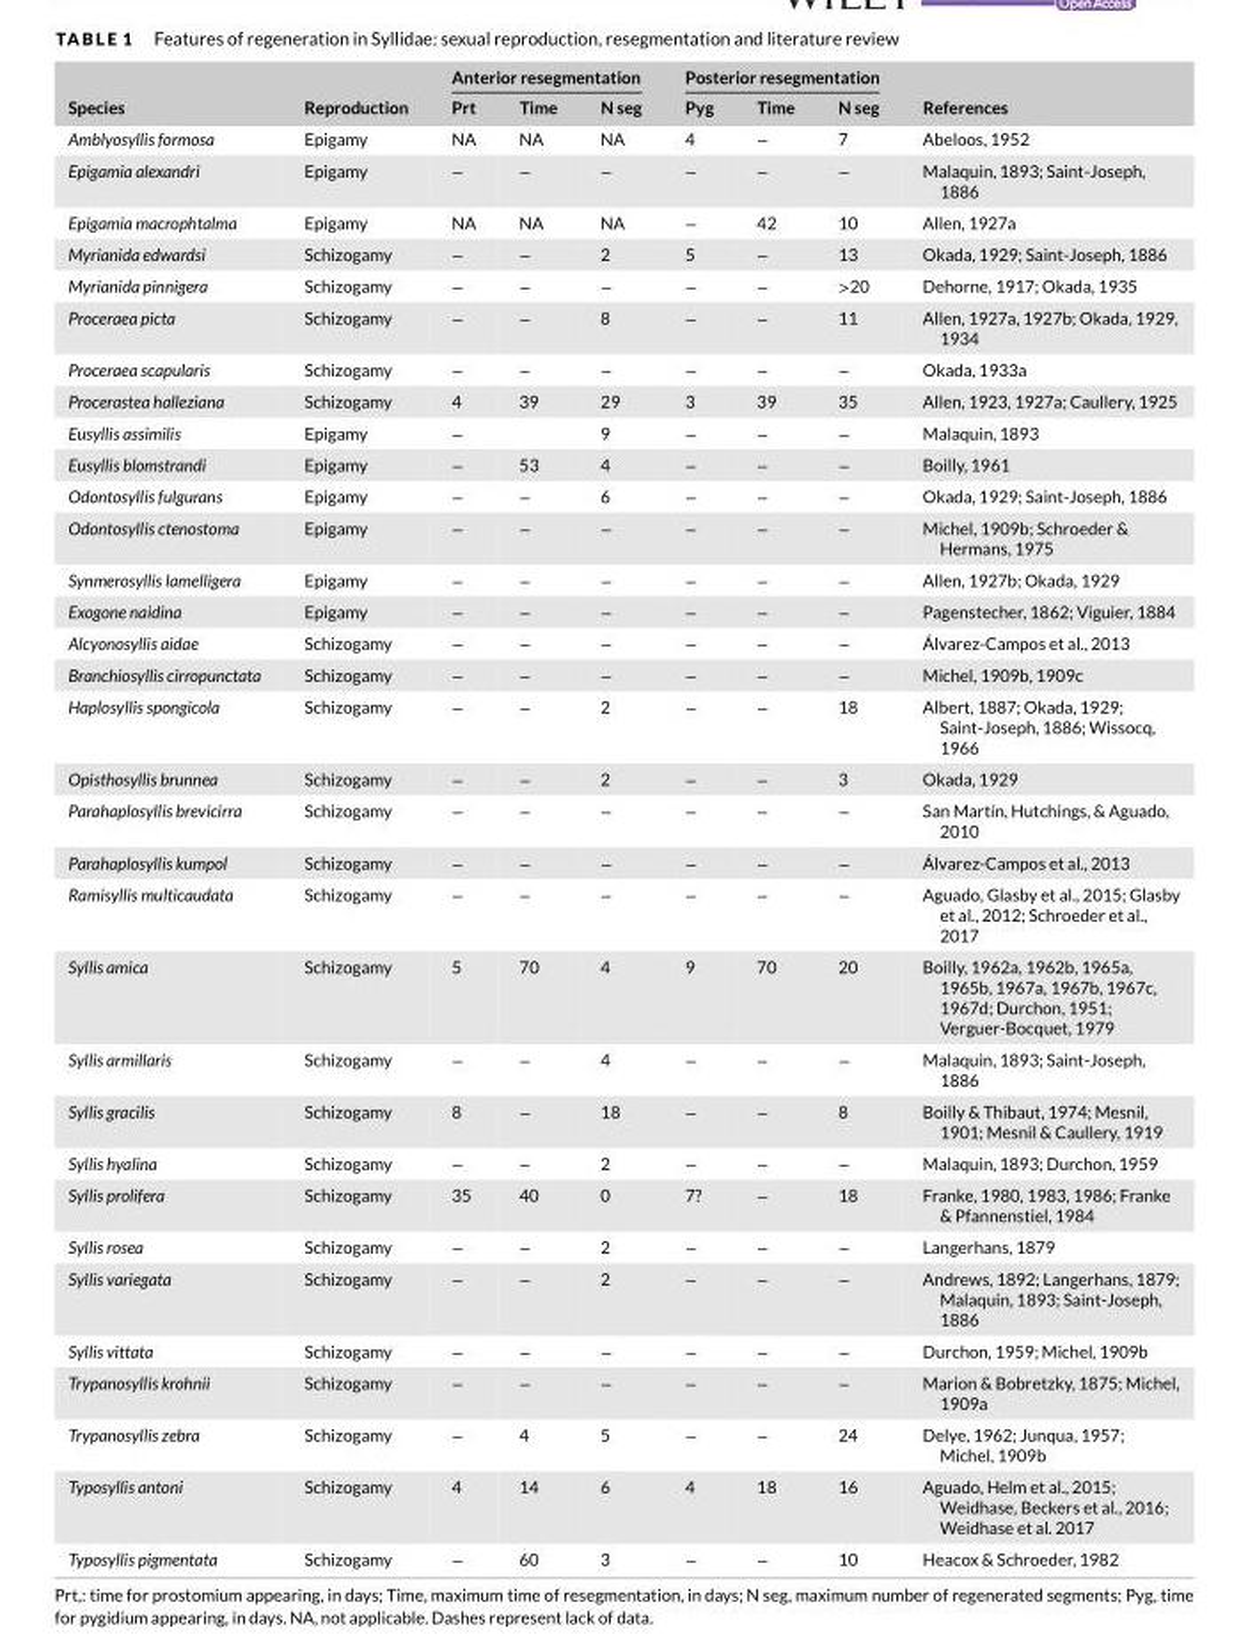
<table><thead><tr><td rowspan="2">Species</td><td rowspan="2">Reproduction</td><td colspan="3">Anterior resegmentation</td><td colspan="3">Posterior resegmentation</td><td rowspan="2">References</td></tr><tr><td>Prt</td><td>Time</td><td>N seg</td><td>Pyg</td><td>Time</td><td>N seg</td></tr></thead><tbody><tr><td>Amblyosyllis formosa</td><td>Epigamy</td><td>NA</td><td>NA</td><td>NA</td><td>4</td><td>−</td><td>7</td><td>Abeloos, 1952</td></tr><tr><td>Epigamia alexandri</td><td>Epigamy</td><td>−</td><td>−</td><td>−</td><td>−</td><td>−</td><td>−</td><td>Malaquin, 1893; Saint-Joseph, 1886</td></tr><tr><td>Epigamia macrophtalma</td><td>Epigamy</td><td>NA</td><td>NA</td><td>NA</td><td>−</td><td>42</td><td>10</td><td>Allen, 1927a</td></tr><tr><td>Myrianida edwardsi</td><td>Schizogamy</td><td>−</td><td>−</td><td>2</td><td>5</td><td>−</td><td>13</td><td>Okada, 1929; Saint-Joseph, 1886</td></tr><tr><td>Myrianida pinnigera</td><td>Schizogamy</td><td>−</td><td>−</td><td>−</td><td>−</td><td>−</td><td>&gt;20</td><td>Dehorne, 1917; Okada, 1935</td></tr><tr><td>Proceraea picta</td><td>Schizogamy</td><td>−</td><td>−</td><td>8</td><td>−</td><td>−</td><td>11</td><td>Allen, 1927a, 1927b; Okada, 1929, 1934</td></tr><tr><td>Proceraea scapularis</td><td>Schizogamy</td><td>−</td><td>−</td><td>−</td><td>−</td><td>−</td><td>−</td><td>Okada, 1933a</td></tr><tr><td>Procerastea halleziana</td><td>Schizogamy</td><td>4</td><td>39</td><td>29</td><td>3</td><td>39</td><td>35</td><td>Allen, 1923, 1927a; Caullery, 1925</td></tr><tr><td>Eusyllis assimilis</td><td>Epigamy</td><td>−</td><td></td><td>9</td><td>−</td><td>−</td><td>−</td><td>Malaquin, 1893</td></tr><tr><td>Eusyllis blomstrandi</td><td>Epigamy</td><td>−</td><td>53</td><td>4</td><td>−</td><td>−</td><td>−</td><td>Boilly, 1961</td></tr><tr><td>Odontosyllis fulgurans</td><td>Epigamy</td><td>−</td><td>−</td><td>6</td><td>−</td><td>−</td><td>−</td><td>Okada, 1929; Saint-Joseph, 1886</td></tr><tr><td>Odontosyllis ctenostoma</td><td>Epigamy</td><td>−</td><td>−</td><td>−</td><td>−</td><td>−</td><td>−</td><td>Michel, 1909b; Schroeder &amp; Hermans, 1975</td></tr><tr><td>Synmerosyllis lamelligera</td><td>Epigamy</td><td>−</td><td>−</td><td>−</td><td>−</td><td>−</td><td>−</td><td>Allen, 1927b; Okada, 1929</td></tr><tr><td>Exogone naidina</td><td>Epigamy</td><td>−</td><td>−</td><td>−</td><td>−</td><td>−</td><td>−</td><td>Pagenstecher, 1862; Viguier, 1884</td></tr><tr><td>Alcyonosyllis aidae</td><td>Schizogamy</td><td>−</td><td>−</td><td>−</td><td>−</td><td>−</td><td>−</td><td>Álvarez-Campos et al., 2013</td></tr><tr><td>Branchiosyllis cirropunctata</td><td>Schizogamy</td><td>−</td><td>−</td><td>−</td><td>−</td><td>−</td><td>−</td><td>Michel, 1909b, 1909c</td></tr><tr><td>Haplosyllis spongicola</td><td>Schizogamy</td><td>−</td><td>−</td><td>2</td><td>−</td><td>−</td><td>18</td><td>Albert, 1887; Okada, 1929; Saint-Joseph, 1886; Wissocq, 1966</td></tr><tr><td>Opisthosyllis brunnea</td><td>Schizogamy</td><td>−</td><td>−</td><td>2</td><td>−</td><td>−</td><td>3</td><td>Okada, 1929</td></tr><tr><td>Parahaplosyllis brevicirra</td><td>Schizogamy</td><td>−</td><td>−</td><td>−</td><td>−</td><td>−</td><td>−</td><td>San Martín, Hutchings, &amp; Aguado, 2010</td></tr><tr><td>Parahaplosyllis kumpol</td><td>Schizogamy</td><td>−</td><td>−</td><td>−</td><td>−</td><td>−</td><td>−</td><td>Álvarez-Campos et al., 2013</td></tr><tr><td>Ramisyllis multicaudata</td><td>Schizogamy</td><td>−</td><td>−</td><td>−</td><td>−</td><td>−</td><td>−</td><td>Aguado, Glasby et al., 2015; Glasby et al., 2012; Schroeder et al., 2017</td></tr><tr><td>Syllis amica</td><td>Schizogamy</td><td>5</td><td>70</td><td>4</td><td>9</td><td>70</td><td>20</td><td>Boilly, 1962a, 1962b, 1965a, 1965b, 1967a, 1967b, 1967c, 1967d; Durchon, 1951; Verguer-Bocquet, 1979</td></tr><tr><td>Syllis armillaris</td><td>Schizogamy</td><td>−</td><td>−</td><td>4</td><td>−</td><td>−</td><td>−</td><td>Malaquin, 1893; Saint-Joseph, 1886</td></tr><tr><td>Syllis gracilis</td><td>Schizogamy</td><td>8</td><td>−</td><td>18</td><td>−</td><td>−</td><td>8</td><td>Boilly &amp; Thibaut, 1974; Mesnil, 1901; Mesnil &amp; Caullery, 1919</td></tr><tr><td>Syllis hyalina</td><td>Schizogamy</td><td>−</td><td>−</td><td>2</td><td>−</td><td>−</td><td>−</td><td>Malaquin, 1893; Durchon, 1959</td></tr><tr><td>Syllis prolifera</td><td>Schizogamy</td><td>35</td><td>40</td><td>0</td><td>7?</td><td>−</td><td>18</td><td>Franke, 1980, 1983, 1986; Franke &amp; Pfannenstiel, 1984</td></tr><tr><td>Syllis rosea</td><td>Schizogamy</td><td>−</td><td>−</td><td>2</td><td>−</td><td>−</td><td>−</td><td>Langerhans, 1879</td></tr><tr><td>Syllis variegata</td><td>Schizogamy</td><td>−</td><td>−</td><td>2</td><td>−</td><td>−</td><td>−</td><td>Andrews, 1892; Langerhans, 1879; Malaquin, 1893; Saint-Joseph, 1886</td></tr><tr><td>Syllis vittata</td><td>Schizogamy</td><td>−</td><td>−</td><td>−</td><td>−</td><td>−</td><td>−</td><td>Durchon, 1959; Michel, 1909b</td></tr><tr><td>Trypanosyllis krohnii</td><td>Schizogamy</td><td>−</td><td>−</td><td>−</td><td>−</td><td>−</td><td>−</td><td>Marion &amp; Bobretzky, 1875; Michel, 1909a</td></tr><tr><td>Trypanosyllis zebra</td><td>Schizogamy</td><td>−</td><td>4</td><td>5</td><td>−</td><td>−</td><td>24</td><td>Delye, 1962; Junqua, 1957; Michel, 1909b</td></tr><tr><td>Typosyllis antoni</td><td>Schizogamy</td><td>4</td><td>14</td><td>6</td><td>4</td><td>18</td><td>16</td><td>Aguado, Helm et al., 2015; Weidhase, Beckers et al., 2016; Weidhase et al. 2017</td></tr><tr><td>Typosyllis pigmentata</td><td>Schizogamy</td><td>−</td><td>60</td><td>3</td><td>−</td><td>−</td><td>10</td><td>Heacox &amp; Schroeder, 1982</td></tr></tbody></table>